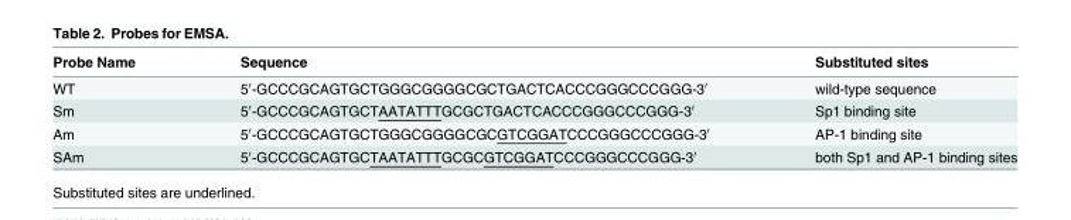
<table><thead><tr><td>Probe Name</td><td>Sequence</td><td>Substituted sites</td></tr></thead><tbody><tr><td>WT</td><td>5′-GCCCGCAGTGCTGGGCGGGGCGCTGACTCACCCGGGCCCGGG-3′</td><td>wild-type sequence</td></tr><tr><td>Sm</td><td>5′-GCCCGCAGTGCTAATATTTGCGCTGACTCACCCGGGCCCGGG-3′</td><td>Sp1 binding site</td></tr><tr><td>Am</td><td>5′-GCCCGCAGTGCTGGGCGGGGCGCGTCGGATCCCGGGCCCGGG-3′</td><td>AP-1 binding site</td></tr><tr><td>SAm</td><td>5′-GCCCGCAGTGCTAATATTTGCGCGTCGGATCCCGGGCCCGGG-3′</td><td>both Sp1 and AP-1 binding sites</td></tr></tbody></table>